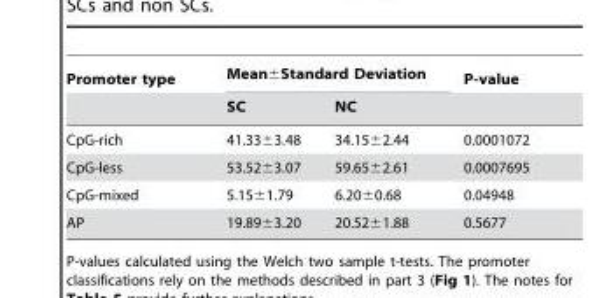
<table><thead><tr><td rowspan="2">Promoter type</td><td colspan="2">Mean±Standard Deviation</td><td rowspan="2">P-value</td></tr><tr><td>SC</td><td>NC</td></tr></thead><tbody><tr><td>CpG-rich</td><td>41.33±3.48</td><td>34.15±2.44</td><td>0.0001072</td></tr><tr><td>CpG-less</td><td>53.52±3.07</td><td>59.65±2.61</td><td>0.0007695</td></tr><tr><td>CpG-mixed</td><td>5.15±1.79</td><td>6.20±0.68</td><td>0.04948</td></tr><tr><td>AP</td><td>19.89±3.20</td><td>20.52±1.88</td><td>0.5677</td></tr></tbody></table>